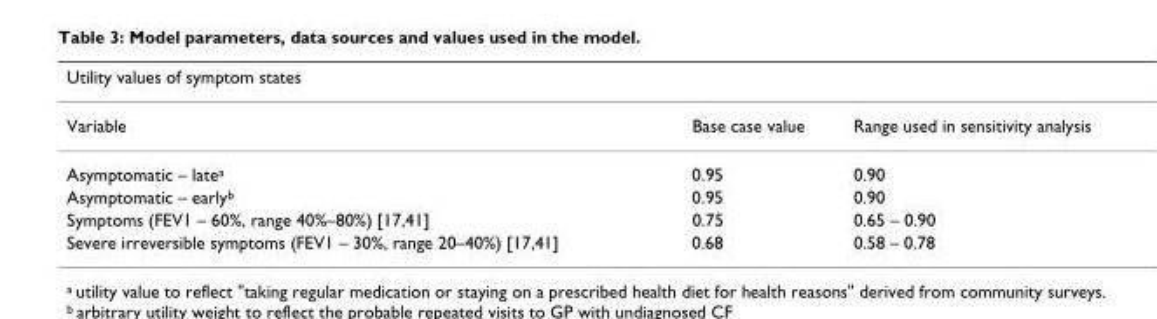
<table><thead><tr><td>Utility values of symptom states</td><td></td><td></td></tr></thead><tbody><tr><td>Variable</td><td>Base case value</td><td>Range used in sensitivity analysis</td></tr><tr><td>Asymptomatic – late<sup>a</sup></td><td>0.95</td><td>0.90</td></tr><tr><td>Asymptomatic – early<sup>b</sup></td><td>0.95</td><td>0.90</td></tr><tr><td>Symptoms (FEV1 – 60%, range 40%–80%) [17,41]</td><td>0.75</td><td>0.65 – 0.90</td></tr><tr><td>Severe irreversible symptoms (FEV1 – 30%, range 20–40%) [17,41]</td><td>0.68</td><td>0.58 – 0.78</td></tr></tbody></table>